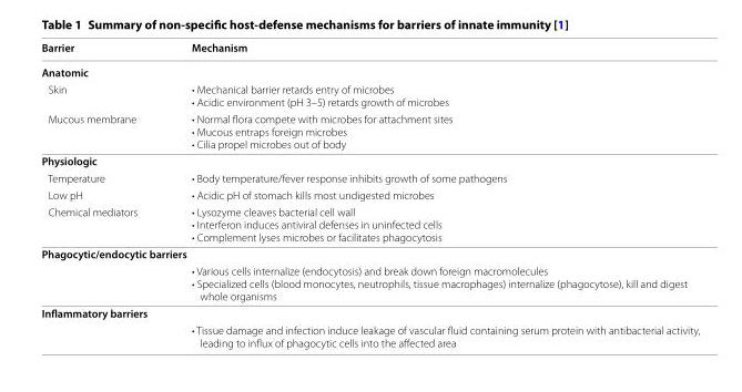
<table><thead><tr><td>Barrier</td><td>Mechanism</td></tr></thead><tbody><tr><td colspan="2">Anatomic</td></tr><tr><td>Skin</td><td>• Mechanical barrier retards entry of microbes • Acidic environment (pH 3–5) retards growth of microbes</td></tr><tr><td>Mucous membrane</td><td>• Normal flora compete with microbes for attachment sites • Mucous entraps foreign microbes • Cilia propel microbes out of body</td></tr><tr><td colspan="2">Physiologic</td></tr><tr><td>Temperature</td><td>• Body temperature/fever response inhibits growth of some pathogens</td></tr><tr><td>Low pH</td><td>• Acidic pH of stomach kills most undigested microbes</td></tr><tr><td>Chemical mediators</td><td>• Lysozyme cleaves bacterial cell wall • Interferon induces antiviral defenses in uninfected cells • Complement lyses microbes or facilitates phagocytosis</td></tr><tr><td colspan="2">Phagocytic/endocytic barriers</td></tr><tr><td></td><td>• Various cells internalize (endocytosis) and break down foreign macromolecules • Specialized cells (blood monocytes, neutrophils, tissue macrophages) internalize (phagocytose), kill and digest whole organisms</td></tr><tr><td colspan="2">Inflammatory barriers</td></tr><tr><td></td><td>• Tissue damage and infection induce leakage of vascular fluid containing serum protein with antibacterial activity, leading to influx of phagocytic cells into the affected area</td></tr></tbody></table>